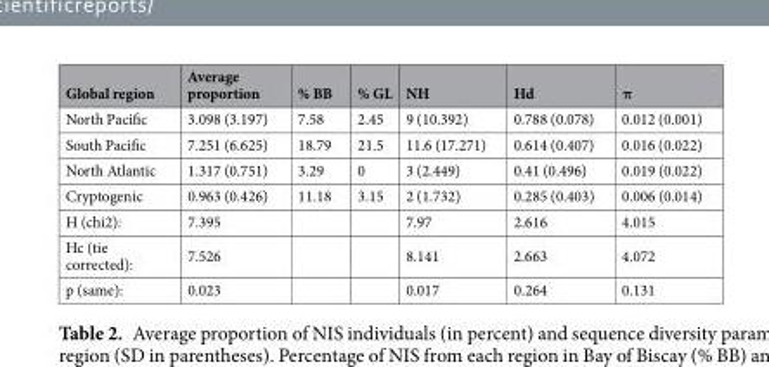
<table><thead><tr><td>Global region</td><td>Average proportion</td><td>% BB</td><td>% GL</td><td>NH</td><td>Hd</td><td>π</td></tr></thead><tbody><tr><td>North Pacific</td><td>3.098 (3.197)</td><td>7.58</td><td>2.45</td><td>9 (10.392)</td><td>0.788 (0.078)</td><td>0.012 (0.001)</td></tr><tr><td>South Pacific</td><td>7.251 (6.625)</td><td>18.79</td><td>21.5</td><td>11.6 (17.271)</td><td>0.614 (0.407)</td><td>0.016 (0.022)</td></tr><tr><td>North Atlantic</td><td>1.317 (0.751)</td><td>3.29</td><td>0</td><td>3 (2.449)</td><td>0.41 (0.496)</td><td>0.019 (0.022)</td></tr><tr><td>Cryptogenic</td><td>0.963 (0.426)</td><td>11.18</td><td>3.15</td><td>2 (1.732)</td><td>0.285 (0.403)</td><td>0.006 (0.014)</td></tr><tr><td>H (chi2):</td><td>7.395</td><td></td><td></td><td>7.97</td><td>2.616</td><td>4.015</td></tr><tr><td>Hc (tie corrected):</td><td>7.526</td><td></td><td></td><td>8.141</td><td>2.663</td><td>4.072</td></tr><tr><td>p (same):</td><td>0.023</td><td></td><td></td><td>0.017</td><td>0.264</td><td>0.131</td></tr></tbody></table>